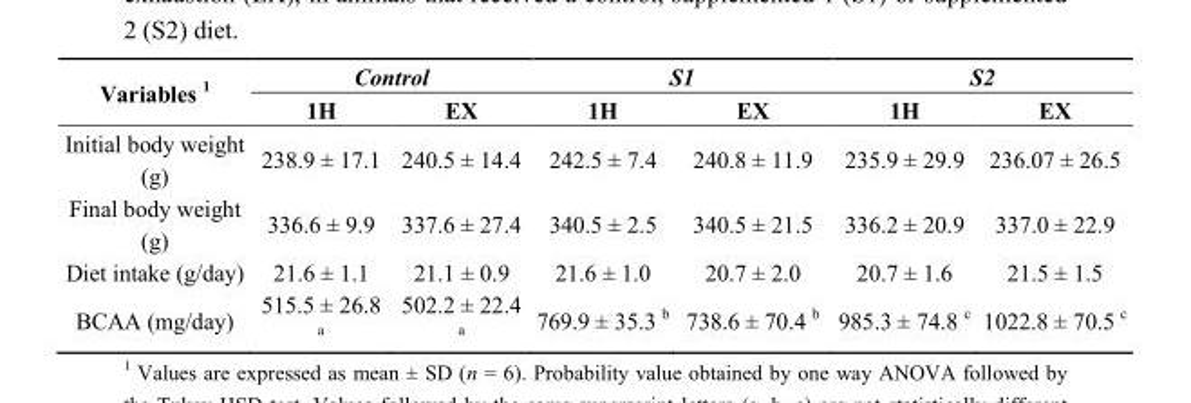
<table><thead><tr><td rowspan="2">Variables <sup>1</sup></td><td colspan="2">Control</td><td colspan="2">S1</td><td colspan="2">S2</td></tr><tr><td>1H</td><td>EX</td><td>1H</td><td>EX</td><td>1H</td><td>EX</td></tr></thead><tbody><tr><td>Initial body weight (g)</td><td>238.9 ± 17.1</td><td>240.5 ± 14.4</td><td>242.5 ± 7.4</td><td>240.8 ± 11.9</td><td>235.9 ± 29.9</td><td>236.07 ± 26.5</td></tr><tr><td>Final body weight (g)</td><td>336.6 ± 9.9</td><td>337.6 ± 27.4</td><td>340.5 ± 2.5</td><td>340.5 ± 21.5</td><td>336.2 ± 20.9</td><td>337.0 ± 22.9</td></tr><tr><td>Diet intake (g/day)</td><td>21.6 ± 1.1</td><td>21.1 ± 0.9</td><td>21.6 ± 1.0</td><td>20.7 ± 2.0</td><td>20.7 ± 1.6</td><td>21.5 ± 1.5</td></tr><tr><td>BCAA (mg/day)</td><td>515.5 ± 26.8 <sup>a</sup></td><td>502.2 ± 22.4 <sup>a</sup></td><td>769.9 ± 35.3 <sup>b</sup></td><td>738.6 ± 70.4 <sup>b</sup></td><td>985.3 ± 74.8 <sup>c</sup></td><td>1022.8 ± 70.5 <sup>c</sup></td></tr></tbody></table>